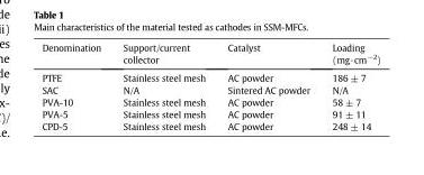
<table><thead><tr><td>Denomination</td><td>Support/current collector</td><td>Catalyst</td><td>Loading (mg·cm<sup>−2</sup>)</td></tr></thead><tbody><tr><td>PTFE</td><td>Stainless steel mesh</td><td>AC powder</td><td>186 ± 7</td></tr><tr><td>SAC</td><td>N/A</td><td>Sintered AC powder</td><td>N/A</td></tr><tr><td>PVA-10</td><td>Stainless steel mesh</td><td>AC powder</td><td>58 ± 7</td></tr><tr><td>PVA-5</td><td>Stainless steel mesh</td><td>AC powder</td><td>91 ± 11</td></tr><tr><td>CPD-5</td><td>Stainless steel mesh</td><td>AC powder</td><td>248 ± 14</td></tr></tbody></table>